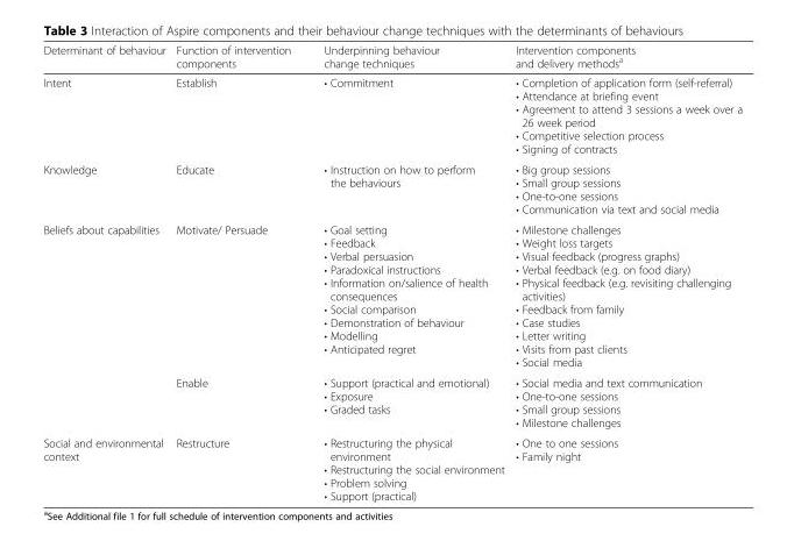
<table><thead><tr><td>Determinant of behaviour</td><td>Function of intervention components</td><td>Underpinning behaviour change techniques</td><td>Intervention components and delivery methods<sup>a</sup></td></tr></thead><tbody><tr><td>Intent</td><td>Establish</td><td>• Commitment</td><td>• Completion of application form (self-referral) • Attendance at briefing event • Agreement to attend 3 sessions a week over a 26 week period • Competitive selection process • Signing of contracts</td></tr><tr><td>Knowledge</td><td>Educate</td><td>• Instruction on how to perform the behaviours</td><td>• Big group sessions • Small group sessions • One-to-one sessions • Communication via text and social media</td></tr><tr><td rowspan="2">Beliefs about capabilities</td><td>Motivate/ Persuade</td><td>• Goal setting • Feedback • Verbal persuasion • Paradoxical instructions • Information on/salience of health consequences • Social comparison • Demonstration of behaviour • Modelling • Anticipated regret</td><td>• Milestone challenges • Weight loss targets • Visual feedback (progress graphs) • Verbal feedback (e.g. on food diary) • Physical feedback (e.g. revisiting challenging activities) • Feedback from family • Case studies • Letter writing • Visits from past clients • Social media</td></tr><tr><td>Enable</td><td>• Support (practical and emotional) • Exposure • Graded tasks</td><td>• Social media and text communication • One-to-one sessions • Small group sessions • Milestone challenges</td></tr><tr><td>Social and environmental context</td><td>Restructure</td><td>• Restructuring the physical environment • Restructuring the social environment • Problem solving • Support (practical)</td><td>• One to one sessions • Family night</td></tr></tbody></table>